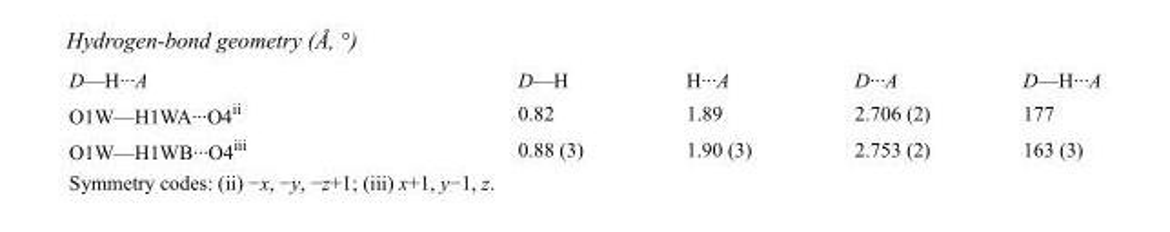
<table><tbody><tr><td>D—H···A</td><td>D—H</td><td>H···A</td><td>D···A</td><td>D—H···A</td></tr><tr><td>O1W—H1WA···O4<sup>ii</sup></td><td>0.82</td><td>1.89</td><td>2.706 (2)</td><td>177</td></tr><tr><td>O1W—H1WB···O4<sup>iii</sup></td><td>0.88 (3)</td><td>1.90 (3)</td><td>2.753 (2)</td><td>163 (3)</td></tr></tbody></table>